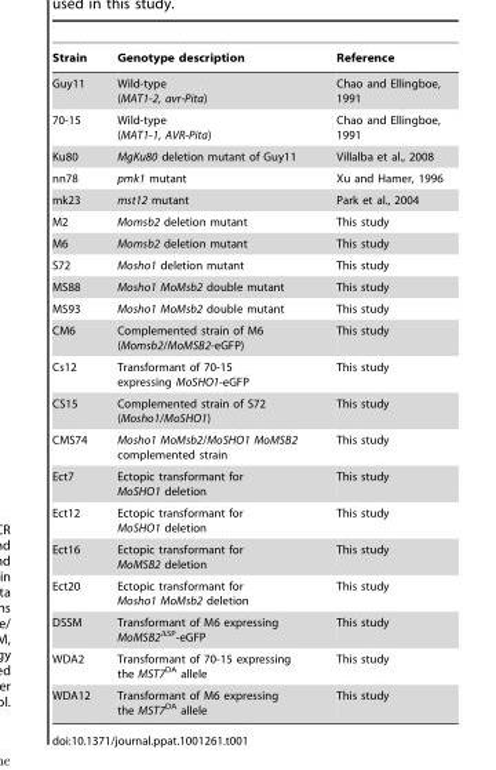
<table><thead><tr><td>Strain</td><td>Genotype description</td><td>Reference</td></tr></thead><tbody><tr><td>Guy11</td><td>Wild-type (MAT1-2, avr-Pita)</td><td>Chao and Ellingboe, 1991</td></tr><tr><td>70-15</td><td>Wild-type (MAT1-1, AVR-Pita)</td><td>Chao and Ellingboe, 1991</td></tr><tr><td>Ku80</td><td>MgKu80 deletion mutant of Guy11</td><td>Villalba et al., 2008</td></tr><tr><td>nn78</td><td>pmk1 mutant</td><td>Xu and Hamer, 1996</td></tr><tr><td>mk23</td><td>mst12 mutant</td><td>Park et al., 2004</td></tr><tr><td>M2</td><td>Momsb2 deletion mutant</td><td>This study</td></tr><tr><td>M6</td><td>Momsb2 deletion mutant</td><td>This study</td></tr><tr><td>S72</td><td>Mosho1 deletion mutant</td><td>This study</td></tr><tr><td>MS88</td><td>Mosho1 MoMsb2 double mutant</td><td>This study</td></tr><tr><td>MS93</td><td>Mosho1 MoMsb2 double mutant</td><td>This study</td></tr><tr><td>CM6</td><td>Complemented strain of M6 (Momsb2/MoMSB2-eGFP)</td><td>This study</td></tr><tr><td>Cs12</td><td>Transformant of 70-15 expressing MoSHO1-eGFP</td><td>This study</td></tr><tr><td>CS15</td><td>Complemented strain of S72 (Mosho1/MoSHO1)</td><td>This study</td></tr><tr><td>CMS74</td><td>Mosho1 MoMsb2/MoSHO1 MoMSB2 complemented strain</td><td>This study</td></tr><tr><td>Ect7</td><td>Ectopic transformant for MoSHO1 deletion</td><td>This study</td></tr><tr><td>Ect12</td><td>Ectopic transformant for MoSHO1 deletion</td><td>This study</td></tr><tr><td>Ect16</td><td>Ectopic transformant for MoMSB2 deletion</td><td>This study</td></tr><tr><td>Ect20</td><td>Ectopic transformant for Mosho1 MoMsb2 deletion</td><td>This study</td></tr><tr><td>DSSM</td><td>Transformant of M6 expressing MoMSB2<sup>ΔSP</sup>-eGFP</td><td>This study</td></tr><tr><td>WDA2</td><td>Transformant of 70-15 expressing the MST7<sup>DA</sup> allele</td><td>This study</td></tr><tr><td>WDA12</td><td>Transformant of M6 expressing the MST7<sup>DA</sup> allele</td><td>This study</td></tr></tbody></table>